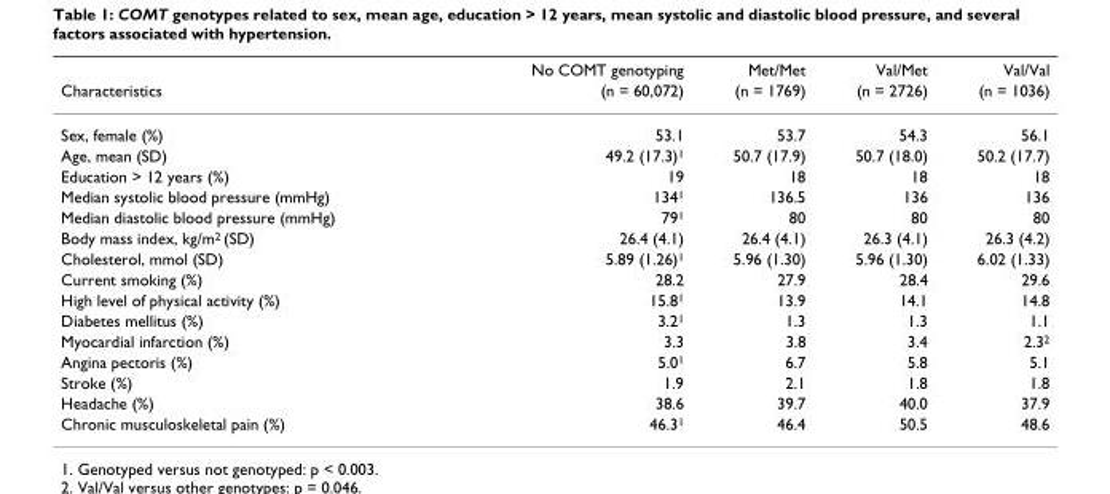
<table><thead><tr><td rowspan="2">Characteristics</td><td rowspan="2">No COMT genotyping (n = 60,072)</td><td rowspan="2">Met/Met (n = 1769)</td><td rowspan="2">Val/Met (n = 2726)</td><td rowspan="2">Val/Val (n = 1036)</td></tr><tr></tr></thead><tbody><tr><td>Sex, female (%)</td><td>53.1</td><td>53.7</td><td>54.3</td><td>56.1</td></tr><tr><td>Age, mean (SD)</td><td>49.2 (17.3)<sup>1</sup></td><td>50.7 (17.9)</td><td>50.7 (18.0)</td><td>50.2 (17.7)</td></tr><tr><td>Education &gt; 12 years (%)</td><td>19</td><td>18</td><td>18</td><td>18</td></tr><tr><td>Median systolic blood pressure (mmHg)</td><td>134<sup>1</sup></td><td>136.5</td><td>136</td><td>136</td></tr><tr><td>Median diastolic blood pressure (mmHg)</td><td>79<sup>1</sup></td><td>80</td><td>80</td><td>80</td></tr><tr><td>Body mass index, kg/m<sup>2</sup> (SD)</td><td>26.4 (4.1)</td><td>26.4 (4.1)</td><td>26.3 (4.1)</td><td>26.3 (4.2)</td></tr><tr><td>Cholesterol, mmol (SD)</td><td>5.89 (1.26)<sup>1</sup></td><td>5.96 (1.30)</td><td>5.96 (1.30)</td><td>6.02 (1.33)</td></tr><tr><td>Current smoking (%)</td><td>28.2</td><td>27.9</td><td>28.4</td><td>29.6</td></tr><tr><td>High level of physical activity (%)</td><td>15.8<sup>1</sup></td><td>13.9</td><td>14.1</td><td>14.8</td></tr><tr><td>Diabetes mellitus (%)</td><td>3.2<sup>1</sup></td><td>1.3</td><td>1.3</td><td>1.1</td></tr><tr><td>Myocardial infarction (%)</td><td>3.3</td><td>3.8</td><td>3.4</td><td>2.3<sup>2</sup></td></tr><tr><td>Angina pectoris (%)</td><td>5.0<sup>1</sup></td><td>6.7</td><td>5.8</td><td>5.1</td></tr><tr><td>Stroke (%)</td><td>1.9</td><td>2.1</td><td>1.8</td><td>1.8</td></tr><tr><td>Headache (%)</td><td>38.6</td><td>39.7</td><td>40.0</td><td>37.9</td></tr><tr><td>Chronic musculoskeletal pain (%)</td><td>46.3<sup>1</sup></td><td>46.4</td><td>50.5</td><td>48.6</td></tr></tbody></table>